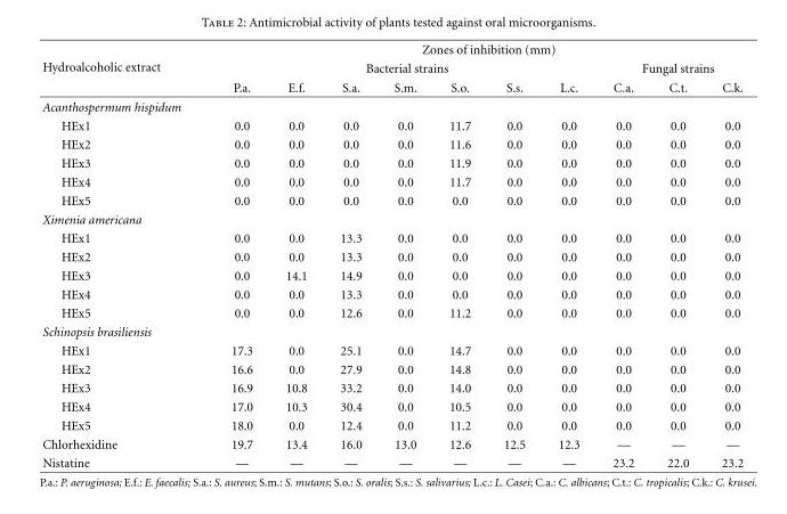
<table><thead><tr><td rowspan="3">Hydroalcoholic extract</td><td colspan="10">Zones of inhibition (mm)</td></tr><tr><td colspan="7">Bacterial strains</td><td colspan="3">Fungal strains</td></tr><tr><td>P.a.</td><td>E.f.</td><td>S.a.</td><td>S.m.</td><td>S.o.</td><td>S.s.</td><td>L.c.</td><td>C.a.</td><td>C.t.</td><td>C.k.</td></tr></thead><tbody><tr><td colspan="11">Acanthospermum hispidum</td></tr><tr><td>HEx1</td><td>0.0</td><td>0.0</td><td>0.0</td><td>0.0</td><td>11.7</td><td>0.0</td><td>0.0</td><td>0.0</td><td>0.0</td><td>0.0</td></tr><tr><td>HEx2</td><td>0.0</td><td>0.0</td><td>0.0</td><td>0.0</td><td>11.6</td><td>0.0</td><td>0.0</td><td>0.0</td><td>0.0</td><td>0.0</td></tr><tr><td>HEx3</td><td>0.0</td><td>0.0</td><td>0.0</td><td>0.0</td><td>11.9</td><td>0.0</td><td>0.0</td><td>0.0</td><td>0.0</td><td>0.0</td></tr><tr><td>HEx4</td><td>0.0</td><td>0.0</td><td>0.0</td><td>0.0</td><td>11.7</td><td>0.0</td><td>0.0</td><td>0.0</td><td>0.0</td><td>0.0</td></tr><tr><td>HEx5</td><td>0.0</td><td>0.0</td><td>0.0</td><td>0.0</td><td>0.0</td><td>0.0</td><td>0.0</td><td>0.0</td><td>0.0</td><td>0.0</td></tr><tr><td colspan="11">Ximenia americana</td></tr><tr><td>HEx1</td><td>0.0</td><td>0.0</td><td>13.3</td><td>0.0</td><td>0.0</td><td>0.0</td><td>0.0</td><td>0.0</td><td>0.0</td><td>0.0</td></tr><tr><td>HEx2</td><td>0.0</td><td>0.0</td><td>13.3</td><td>0.0</td><td>0.0</td><td>0.0</td><td>0.0</td><td>0.0</td><td>0.0</td><td>0.0</td></tr><tr><td>HEx3</td><td>0.0</td><td>14.1</td><td>14.9</td><td>0.0</td><td>0.0</td><td>0.0</td><td>0.0</td><td>0.0</td><td>0.0</td><td>0.0</td></tr><tr><td>HEx4</td><td>0.0</td><td>0.0</td><td>13.3</td><td>0.0</td><td>0.0</td><td>0.0</td><td>0.0</td><td>0.0</td><td>0.0</td><td>0.0</td></tr><tr><td>HEx5</td><td>0.0</td><td>0.0</td><td>12.6</td><td>0.0</td><td>11.2</td><td>0.0</td><td>0.0</td><td>0.0</td><td>0.0</td><td>0.0</td></tr><tr><td colspan="11">Schinopsis brasiliensis</td></tr><tr><td>HEx1</td><td>17.3</td><td>0.0</td><td>25.1</td><td>0.0</td><td>14.7</td><td>0.0</td><td>0.0</td><td>0.0</td><td>0.0</td><td>0.0</td></tr><tr><td>HEx2</td><td>16.6</td><td>0.0</td><td>27.9</td><td>0.0</td><td>14.8</td><td>0.0</td><td>0.0</td><td>0.0</td><td>0.0</td><td>0.0</td></tr><tr><td>HEx3</td><td>16.9</td><td>10.8</td><td>33.2</td><td>0.0</td><td>14.0</td><td>0.0</td><td>0.0</td><td>0.0</td><td>0.0</td><td>0.0</td></tr><tr><td>HEx4</td><td>17.0</td><td>10.3</td><td>30.4</td><td>0.0</td><td>10.5</td><td>0.0</td><td>0.0</td><td>0.0</td><td>0.0</td><td>0.0</td></tr><tr><td>HEx5</td><td>18.0</td><td>0.0</td><td>12.4</td><td>0.0</td><td>11.2</td><td>0.0</td><td>0.0</td><td>0.0</td><td>0.0</td><td>0.0</td></tr><tr><td>Chlorhexidine</td><td>19.7</td><td>13.4</td><td>16.0</td><td>13.0</td><td>12.6</td><td>12.5</td><td>12.3</td><td>—</td><td>—</td><td>—</td></tr><tr><td>Nistatine</td><td>—</td><td>—</td><td>—</td><td>—</td><td>—</td><td>—</td><td>—</td><td>23.2</td><td>22.0</td><td>23.2</td></tr></tbody></table>